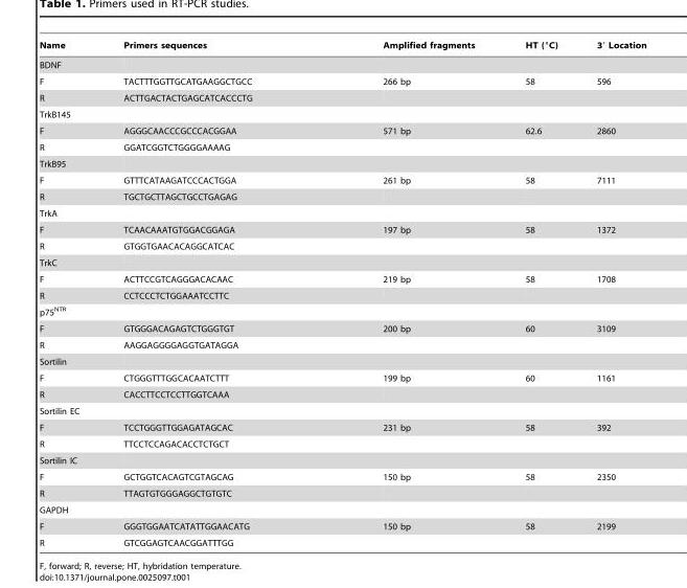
<table><thead><tr><td>Name</td><td>Primers sequences</td><td>Amplified fragments</td><td>HT (°C)</td><td>3′ Location</td></tr></thead><tbody><tr><td colspan="5">BDNF</td></tr><tr><td>F</td><td>TACTTTGGTTGCATGAAGGCTGCC</td><td>266 bp</td><td>58</td><td>596</td></tr><tr><td>R</td><td>ACTTGACTACTGAGCATCACCCTG</td><td></td><td></td><td></td></tr><tr><td colspan="5">TrkB145</td></tr><tr><td>F</td><td>AGGGCAACCCGCCCACGGAA</td><td>571 bp</td><td>62.6</td><td>2860</td></tr><tr><td>R</td><td>GGATCGGTCTGGGGAAAAG</td><td></td><td></td><td></td></tr><tr><td colspan="5">TrkB95</td></tr><tr><td>F</td><td>GTTTCATAAGATCCCACTGGA</td><td>261 bp</td><td>58</td><td>7111</td></tr><tr><td>R</td><td>TGCTGCTTAGCTGCCTGAGAG</td><td></td><td></td><td></td></tr><tr><td colspan="5">TrkA</td></tr><tr><td>F</td><td>TCAACAAATGTGGACGGAGA</td><td>197 bp</td><td>58</td><td>1372</td></tr><tr><td>R</td><td>GTGGTGAACACAGGCATCAC</td><td></td><td></td><td></td></tr><tr><td colspan="5">TrkC</td></tr><tr><td>F</td><td>ACTTCCGTCAGGGACACAAC</td><td>219 bp</td><td>58</td><td>1708</td></tr><tr><td>R</td><td>CCTCCCTCTGGAAATCCTTC</td><td></td><td></td><td></td></tr><tr><td colspan="5">p75<sup>NTR</sup></td></tr><tr><td>F</td><td>GTGGGACAGAGTCTGGGTGT</td><td>200 bp</td><td>60</td><td>3109</td></tr><tr><td>R</td><td>AAGGAGGGGAGGTGATAGGA</td><td></td><td></td><td></td></tr><tr><td colspan="5">Sortilin</td></tr><tr><td>F</td><td>CTGGGTTTGGCACAATCTTT</td><td>199 bp</td><td>60</td><td>1161</td></tr><tr><td>R</td><td>CACCTTCCTCCTTGGTCAAA</td><td></td><td></td><td></td></tr><tr><td colspan="5">Sortilin EC</td></tr><tr><td>F</td><td>TCCTGGGTTGGAGATAGCAC</td><td>231 bp</td><td>58</td><td>392</td></tr><tr><td>R</td><td>TTCCTCCAGACACCTCTGCT</td><td></td><td></td><td></td></tr><tr><td colspan="5">Sortilin IC</td></tr><tr><td>F</td><td>GCTGGTCACAGTCGTAGCAG</td><td>150 bp</td><td>58</td><td>2350</td></tr><tr><td>R</td><td>TTAGTGTGGGAGGCTGTGTC</td><td></td><td></td><td></td></tr><tr><td colspan="5">GAPDH</td></tr><tr><td>F</td><td>GGGTGGAATCATATTGGAACATG</td><td>150 bp</td><td>58</td><td>2199</td></tr><tr><td>R</td><td>GTCGGAGTCAACGGATTTGG</td><td></td><td></td><td></td></tr></tbody></table>